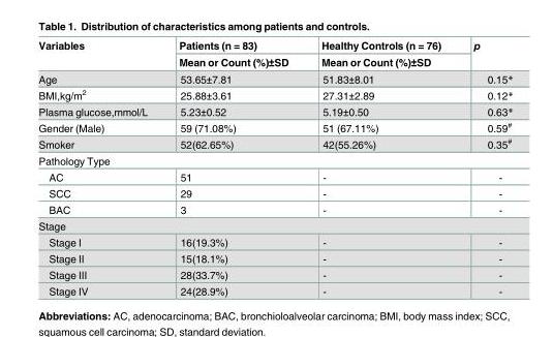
<table><thead><tr><td rowspan="2">Variables</td><td rowspan="2">Patients (n = 83) Mean or Count (%)±SD</td><td rowspan="2">Healthy Controls (n = 76) Mean or Count (%)±SD</td><td rowspan="2">p</td></tr><tr></tr></thead><tbody><tr><td>Age</td><td>53.65±7.81</td><td>51.83±8.01</td><td>0.15*</td></tr><tr><td>BMI,kg/m<sup>2</sup></td><td>25.88±3.61</td><td>27.31±2.89</td><td>0.12*</td></tr><tr><td>Plasma glucose,mmol/L</td><td>5.23±0.52</td><td>5.19±0.50</td><td>0.63*</td></tr><tr><td>Gender (Male)</td><td>59 (71.08%)</td><td>51 (67.11%)</td><td>0.59<sup>#</sup></td></tr><tr><td>Smoker</td><td>52(62.65%)</td><td>42(55.26%)</td><td>0.35<sup>#</sup></td></tr><tr><td colspan="4">Pathology Type</td></tr><tr><td>AC</td><td>51</td><td>-</td><td>-</td></tr><tr><td>SCC</td><td>29</td><td>-</td><td>-</td></tr><tr><td>BAC</td><td>3</td><td>-</td><td>-</td></tr><tr><td colspan="4">Stage</td></tr><tr><td>Stage I</td><td>16(19.3%)</td><td>-</td><td>-</td></tr><tr><td>Stage II</td><td>15(18.1%)</td><td>-</td><td>-</td></tr><tr><td>Stage III</td><td>28(33.7%)</td><td>-</td><td>-</td></tr><tr><td>Stage IV</td><td>24(28.9%)</td><td>-</td><td>-</td></tr></tbody></table>